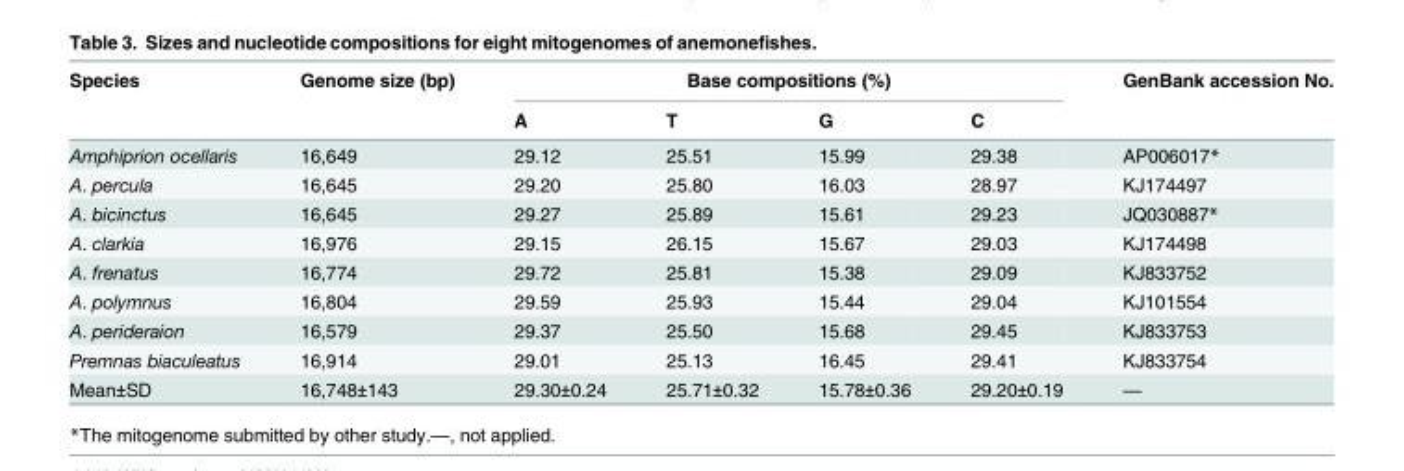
<table><thead><tr><td rowspan="2">Species</td><td rowspan="2">Genome size (bp)</td><td colspan="4">Base compositions (%)</td><td rowspan="2">GenBank accession No.</td></tr><tr><td>A</td><td>T</td><td>G</td><td>C</td></tr></thead><tbody><tr><td>Amphiprion ocellaris</td><td>16,649</td><td>29.12</td><td>25.51</td><td>15.99</td><td>29.38</td><td>AP006017*</td></tr><tr><td>A. percula</td><td>16,645</td><td>29.20</td><td>25.80</td><td>16.03</td><td>28.97</td><td>KJ174497</td></tr><tr><td>A. bicinctus</td><td>16,645</td><td>29.27</td><td>25.89</td><td>15.61</td><td>29.23</td><td>JQ030887*</td></tr><tr><td>A. clarkia</td><td>16,976</td><td>29.15</td><td>26.15</td><td>15.67</td><td>29.03</td><td>KJ174498</td></tr><tr><td>A. frenatus</td><td>16,774</td><td>29.72</td><td>25.81</td><td>15.38</td><td>29.09</td><td>KJ833752</td></tr><tr><td>A. polymnus</td><td>16,804</td><td>29.59</td><td>25.93</td><td>15.44</td><td>29.04</td><td>KJ101554</td></tr><tr><td>A. perideraion</td><td>16,579</td><td>29.37</td><td>25.50</td><td>15.68</td><td>29.45</td><td>KJ833753</td></tr><tr><td>Premnas biaculeatus</td><td>16,914</td><td>29.01</td><td>25.13</td><td>16.45</td><td>29.41</td><td>KJ833754</td></tr><tr><td>Mean±SD</td><td>16,748±143</td><td>29.30±0.24</td><td>25.71±0.32</td><td>15.78±0.36</td><td>29.20±0.19</td><td>—</td></tr></tbody></table>